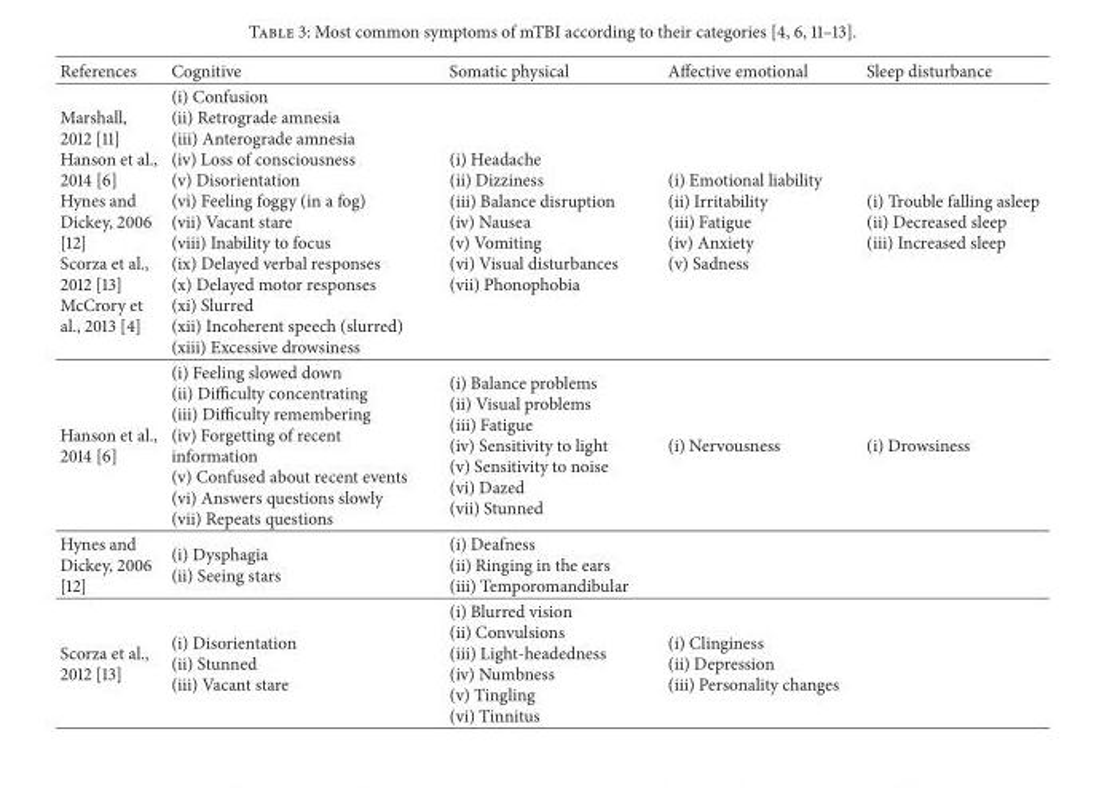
<table><thead><tr><td>References</td><td>Cognitive</td><td>Somatic physical</td><td>Affective emotional</td><td>Sleep disturbance</td></tr></thead><tbody><tr><td>Marshall, 2012 [11] Hanson et al., 2014 [6] Hynes and Dickey, 2006 [12] Scorza et al., 2012 [13] McCrory et al., 2013 [4]</td><td>(i) Confusion (ii) Retrograde amnesia (iii) Anterograde amnesia (iv) Loss of consciousness (v) Disorientation (vi) Feeling foggy (in a fog) (vii) Vacant stare (viii) Inability to focus (ix) Delayed verbal responses (x) Delayed motor responses (xi) Slurred (xii) Incoherent speech (slurred) (xiii) Excessive drowsiness</td><td>(i) Headache (ii) Dizziness (iii) Balance disruption (iv) Nausea (v) Vomiting (vi) Visual disturbances (vii) Phonophobia</td><td>(i) Emotional liability (ii) Irritability (iii) Fatigue (iv) Anxiety (v) Sadness</td><td>(i) Trouble falling asleep (ii) Decreased sleep (iii) Increased sleep</td></tr><tr><td>Hanson et al., 2014 [6]</td><td>(i) Feeling slowed down (ii) Difficulty concentrating (iii) Difficulty remembering (iv) Forgetting of recent information (v) Confused about recent events (vi) Answers questions slowly (vii) Repeats questions</td><td>(i) Balance problems (ii) Visual problems (iii) Fatigue (iv) Sensitivity to light (v) Sensitivity to noise (vi) Dazed (vii) Stunned</td><td>(i) Nervousness</td><td>(i) Drowsiness</td></tr><tr><td>Hynes and Dickey, 2006 [12]</td><td>(i) Dysphagia (ii) Seeing stars</td><td>(i) Deafness (ii) Ringing in the ears (iii) Temporomandibular</td><td></td><td></td></tr><tr><td>Scorza et al., 2012 [13]</td><td>(i) Disorientation (ii) Stunned (iii) Vacant stare</td><td>(i) Blurred vision (ii) Convulsions (iii) Light-headedness (iv) Numbness (v) Tingling (vi) Tinnitus</td><td>(i) Clinginess (ii) Depression (iii) Personality changes</td><td></td></tr></tbody></table>